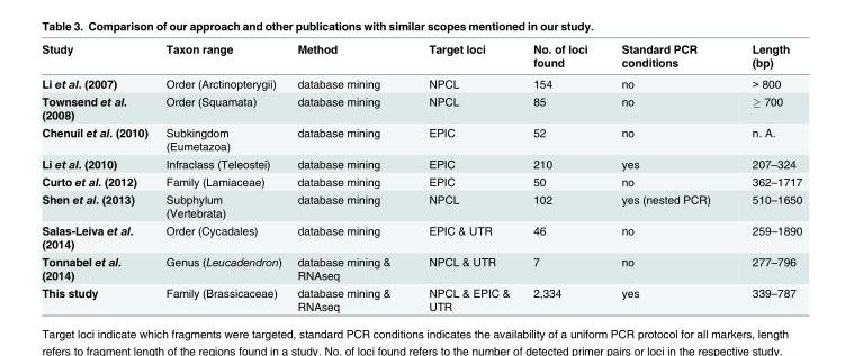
<table><thead><tr><td>Study</td><td>Taxon range</td><td>Method</td><td>Target loci</td><td>No. of loci found</td><td>Standard PCR conditions</td><td>Length (bp)</td></tr></thead><tbody><tr><td>Li et al. (2007)</td><td>Order (Arctinopterygii)</td><td>database mining</td><td>NPCL</td><td>154</td><td>no</td><td>&gt; 800</td></tr><tr><td>Townsend et al. (2008)</td><td>Order (Squamata)</td><td>database mining</td><td>NPCL</td><td>85</td><td>no</td><td>≥ 700</td></tr><tr><td>Chenuil et al. (2010)</td><td>Subkingdom (Eumetazoa)</td><td>database mining</td><td>EPIC</td><td>52</td><td>no</td><td>n. A.</td></tr><tr><td>Li et al. (2010)</td><td>Infraclass (Teleostei)</td><td>database mining</td><td>EPIC</td><td>210</td><td>yes</td><td>207–324</td></tr><tr><td>Curto et al. (2012)</td><td>Family (Lamiaceae)</td><td>database mining</td><td>EPIC</td><td>50</td><td>no</td><td>362–1717</td></tr><tr><td>Shen et al. (2013)</td><td>Subphylum (Vertebrata)</td><td>database mining</td><td>NPCL</td><td>102</td><td>yes (nested PCR)</td><td>510–1650</td></tr><tr><td>Salas-Leiva et al. (2014)</td><td>Order (Cycadales)</td><td>database mining</td><td>EPIC &amp; UTR</td><td>46</td><td>no</td><td>259–1890</td></tr><tr><td>Tonnabel et al. (2014)</td><td>Genus (Leucadendron)</td><td>database mining &amp; RNAseq</td><td>NPCL &amp; UTR</td><td>7</td><td>no</td><td>277–796</td></tr><tr><td>This study</td><td>Family (Brassicaceae)</td><td>database mining &amp; RNAseq</td><td>NPCL &amp; EPIC &amp; UTR</td><td>2,334</td><td>yes</td><td>339–787</td></tr></tbody></table>